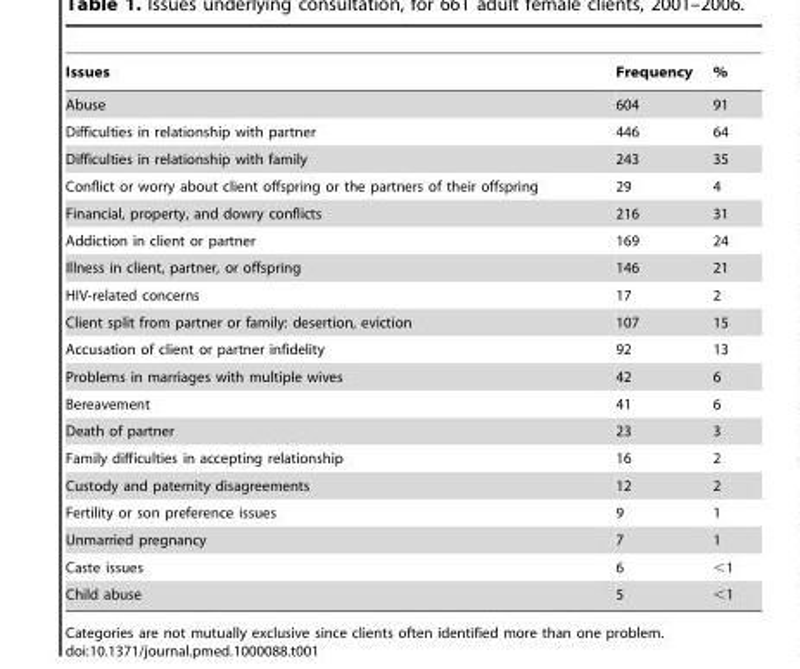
<table><thead><tr><td>Issues</td><td>Frequency</td><td>%</td></tr></thead><tbody><tr><td>Abuse</td><td>604</td><td>91</td></tr><tr><td>Difficulties in relationship with partner</td><td>446</td><td>64</td></tr><tr><td>Difficulties in relationship with family</td><td>243</td><td>35</td></tr><tr><td>Conflict or worry about client offspring or the partners of their offspring</td><td>29</td><td>4</td></tr><tr><td>Financial, property, and dowry conflicts</td><td>216</td><td>31</td></tr><tr><td>Addiction in client or partner</td><td>169</td><td>24</td></tr><tr><td>Illness in client, partner, or offspring</td><td>146</td><td>21</td></tr><tr><td>HIV-related concerns</td><td>17</td><td>2</td></tr><tr><td>Client split from partner or family: desertion, eviction</td><td>107</td><td>15</td></tr><tr><td>Accusation of client or partner infidelity</td><td>92</td><td>13</td></tr><tr><td>Problems in marriages with multiple wives</td><td>42</td><td>6</td></tr><tr><td>Bereavement</td><td>41</td><td>6</td></tr><tr><td>Death of partner</td><td>23</td><td>3</td></tr><tr><td>Family difficulties in accepting relationship</td><td>16</td><td>2</td></tr><tr><td>Custody and paternity disagreements</td><td>12</td><td>2</td></tr><tr><td>Fertility or son preference issues</td><td>9</td><td>1</td></tr><tr><td>Unmarried pregnancy</td><td>7</td><td>1</td></tr><tr><td>Caste issues</td><td>6</td><td>&lt;1</td></tr><tr><td>Child abuse</td><td>5</td><td>&lt;1</td></tr></tbody></table>